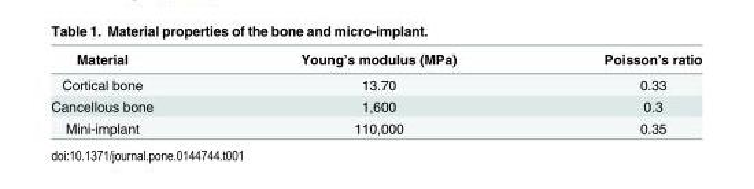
<table><thead><tr><td>Material</td><td>Young’s modulus (MPa)</td><td>Poisson’s ratio</td></tr></thead><tbody><tr><td>Cortical bone</td><td>13.70</td><td>0.33</td></tr><tr><td>Cancellous bone</td><td>1,600</td><td>0.3</td></tr><tr><td>Mini-implant</td><td>110,000</td><td>0.35</td></tr></tbody></table>